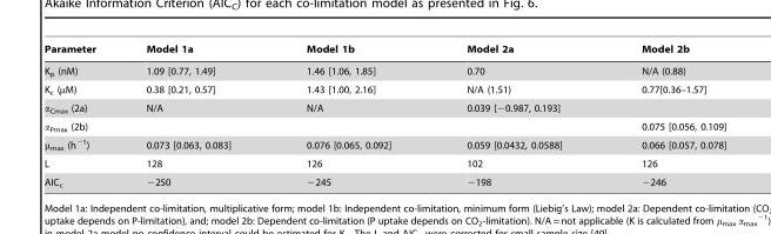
<table><thead><tr><td>Parameter</td><td>Model 1a</td><td>Model 1b</td><td>Model 2a</td><td>Model 2b</td></tr></thead><tbody><tr><td>K<sub>p</sub> (nM)</td><td>1.09 [0.77, 1.49]</td><td>1.46 [1.06, 1.85]</td><td>0.70</td><td>N/A (0.88)</td></tr><tr><td>K<sub>c</sub> (µM)</td><td>0.38 [0.21, 0.57]</td><td>1.43 [1.00, 2.16]</td><td>N/A (1.51)</td><td>0.77[0.36–1.57]</td></tr><tr><td>α<sub>Cmax</sub> (2a)</td><td>N/A</td><td>N/A</td><td>0.039 [−0.987, 0.193]</td><td></td></tr><tr><td>α<sub>Pmax</sub> (2b)</td><td></td><td></td><td></td><td>0.075 [0.056, 0.109]</td></tr><tr><td>μ<sub>max</sub> (h<sup>−1</sup>)</td><td>0.073 [0.063, 0.083]</td><td>0.076 [0.065, 0.092]</td><td>0.059 [0.0432, 0.0588]</td><td>0.066 [0.057, 0.078]</td></tr><tr><td>L</td><td>128</td><td>126</td><td>102</td><td>126</td></tr><tr><td>AIC<sub>c</sub></td><td>−250</td><td>−245</td><td>−198</td><td>−246</td></tr></tbody></table>